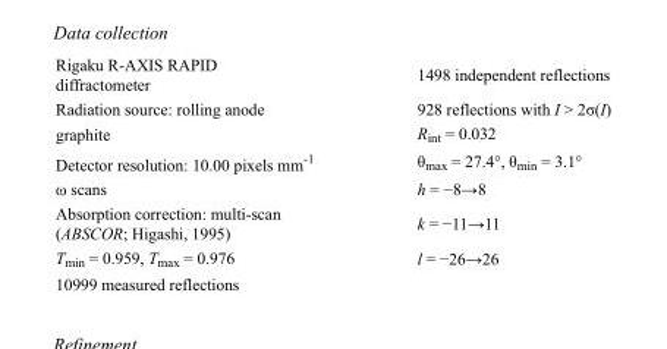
<table><tbody><tr><td>Rigaku R-AXIS RAPID diffractometer</td><td>1498 independent reflections</td></tr><tr><td>Radiation source: rolling anode</td><td>928 reflections with I &gt; 2σ(I)</td></tr><tr><td>graphite</td><td>R<sub>int</sub> = 0.032</td></tr><tr><td>Detector resolution: 10.00 pixels mm<sup>-1</sup></td><td>θ<sub>max</sub> = 27.4°, θ<sub>min</sub> = 3.1°</td></tr><tr><td>ω scans</td><td>h = −8→8</td></tr><tr><td>Absorption correction: multi-scan (ABSCOR; Higashi, 1995)</td><td>k = −11→11</td></tr><tr><td>T<sub>min</sub> = 0.959, T<sub>max</sub> = 0.976</td><td>l = −26→26</td></tr><tr><td>10999 measured reflections</td><td></td></tr></tbody></table>